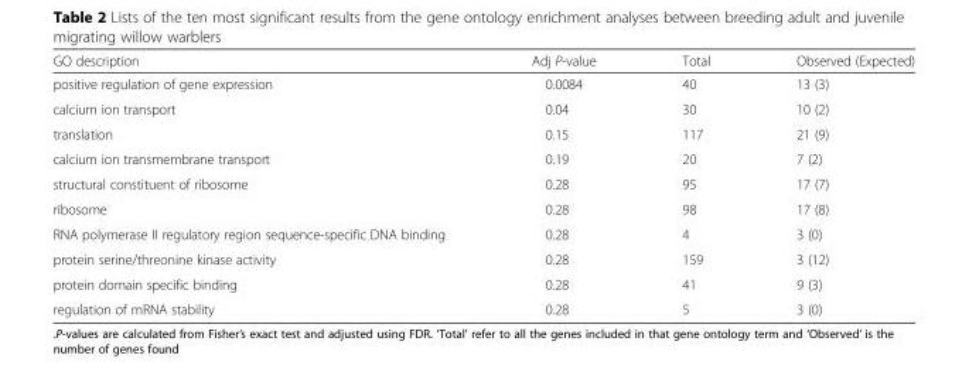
<table><thead><tr><td>GO description</td><td>Adj P-value</td><td>Total</td><td>Observed (Expected)</td></tr></thead><tbody><tr><td>positive regulation of gene expression</td><td>0.0084</td><td>40</td><td>13 (3)</td></tr><tr><td>calcium ion transport</td><td>0.04</td><td>30</td><td>10 (2)</td></tr><tr><td>translation</td><td>0.15</td><td>117</td><td>21 (9)</td></tr><tr><td>calcium ion transmembrane transport</td><td>0.19</td><td>20</td><td>7 (2)</td></tr><tr><td>structural constituent of ribosome</td><td>0.28</td><td>95</td><td>17 (7)</td></tr><tr><td>ribosome</td><td>0.28</td><td>98</td><td>17 (8)</td></tr><tr><td>RNA polymerase II regulatory region sequence-specific DNA binding</td><td>0.28</td><td>4</td><td>3 (0)</td></tr><tr><td>protein serine/threonine kinase activity</td><td>0.28</td><td>159</td><td>3 (12)</td></tr><tr><td>protein domain specific binding</td><td>0.28</td><td>41</td><td>9 (3)</td></tr><tr><td>regulation of mRNA stability</td><td>0.28</td><td>5</td><td>3 (0)</td></tr></tbody></table>